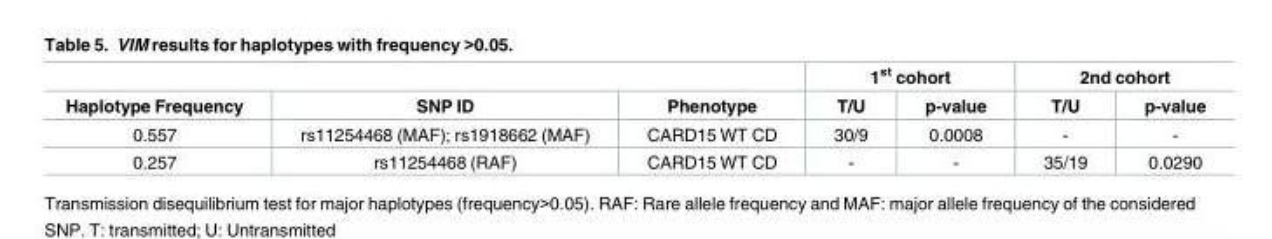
<table><thead><tr><td rowspan="2">Haplotype Frequency</td><td rowspan="2">SNP ID</td><td rowspan="2">Phenotype</td><td colspan="2">1<sup>st</sup> cohort</td><td colspan="2">2nd cohort</td></tr><tr><td>T/U</td><td>p-value</td><td>T/U</td><td>p-value</td></tr></thead><tbody><tr><td>0.557</td><td>rs11254468 (MAF); rs1918662 (MAF)</td><td>CARD15 WT CD</td><td>30/9</td><td>0.0008</td><td>-</td><td>-</td></tr><tr><td>0.257</td><td>rs11254468 (RAF)</td><td>CARD15 WT CD</td><td>-</td><td>-</td><td>35/19</td><td>0.0290</td></tr></tbody></table>